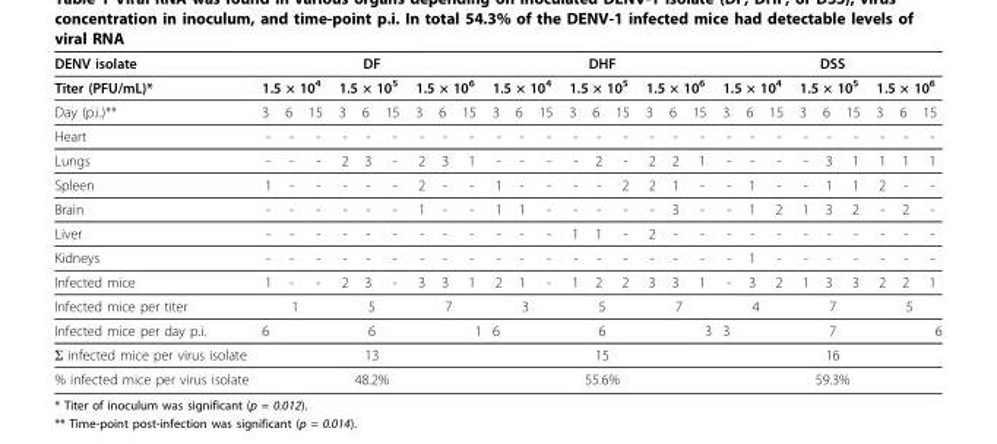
<table><thead><tr><td rowspan="3">DENV isolate Titer (PFU/mL)* Day (p.i.)**</td><td colspan="9">DF</td><td colspan="9">DHF</td><td colspan="9">DSS</td></tr><tr><td colspan="3">1.5 × 104</td><td colspan="3">1.5 × 105</td><td colspan="3">1.5 × 106</td><td colspan="3">1.5 × 104</td><td colspan="3">1.5 × 105</td><td colspan="3">1.5 × 106</td><td colspan="3">1.5 × 104</td><td colspan="3">1.5 × 105</td><td colspan="3">1.5 × 106</td></tr><tr><td>3</td><td>6</td><td>15</td><td>3</td><td>6</td><td>15</td><td>3</td><td>6</td><td>15</td><td>3</td><td>6</td><td>15</td><td>3</td><td>6</td><td>15</td><td>3</td><td>6</td><td>15</td><td>3</td><td>6</td><td>15</td><td>3</td><td>6</td><td>15</td><td>3</td><td>6</td><td>15</td></tr></thead><tbody><tr><td>Heart</td><td>-</td><td>-</td><td>-</td><td>-</td><td>-</td><td>-</td><td>-</td><td>-</td><td>-</td><td>-</td><td>-</td><td>-</td><td>-</td><td>-</td><td>-</td><td>-</td><td>-</td><td>-</td><td>-</td><td>-</td><td>-</td><td>-</td><td>-</td><td>-</td><td>-</td><td>-</td><td>-</td></tr><tr><td>Lungs</td><td>-</td><td>-</td><td>-</td><td>2</td><td>3</td><td>-</td><td>2</td><td>3</td><td>1</td><td>-</td><td>-</td><td>-</td><td>-</td><td>2</td><td>-</td><td>2</td><td>2</td><td>1</td><td>-</td><td>-</td><td>-</td><td>-</td><td>3</td><td>1</td><td>1</td><td>1</td><td>1</td></tr><tr><td>Spleen</td><td>1</td><td>-</td><td>-</td><td>-</td><td>-</td><td>-</td><td>2</td><td>-</td><td>-</td><td>1</td><td>-</td><td>-</td><td>-</td><td>-</td><td>2</td><td>2</td><td>1</td><td>-</td><td>-</td><td>1</td><td>-</td><td>-</td><td>1</td><td>1</td><td>2</td><td>-</td><td>-</td></tr><tr><td>Brain</td><td>-</td><td>-</td><td>-</td><td>-</td><td>-</td><td>-</td><td>1</td><td>-</td><td>-</td><td>1</td><td>1</td><td>-</td><td>-</td><td>-</td><td>-</td><td>-</td><td>3</td><td>-</td><td>-</td><td>1</td><td>2</td><td>1</td><td>3</td><td>2</td><td>-</td><td>2</td><td>-</td></tr><tr><td>Liver</td><td>-</td><td>-</td><td>-</td><td>-</td><td>-</td><td>-</td><td>-</td><td>-</td><td>-</td><td>-</td><td>-</td><td>-</td><td>1</td><td>1</td><td>-</td><td>2</td><td>-</td><td>-</td><td>-</td><td>-</td><td>-</td><td>-</td><td>-</td><td>-</td><td>-</td><td>-</td><td>-</td></tr><tr><td>Kidneys</td><td>-</td><td>-</td><td>-</td><td>-</td><td>-</td><td>-</td><td>-</td><td>-</td><td>-</td><td>-</td><td>-</td><td>-</td><td>-</td><td>-</td><td>-</td><td>-</td><td>-</td><td>-</td><td>-</td><td>1</td><td>-</td><td>-</td><td>-</td><td>-</td><td>-</td><td>-</td><td>-</td></tr><tr><td>Infected mice</td><td>1</td><td>-</td><td>-</td><td>2</td><td>3</td><td>-</td><td>3</td><td>3</td><td>1</td><td>2</td><td>1</td><td>-</td><td>1</td><td>2</td><td>2</td><td>3</td><td>3</td><td>1</td><td>-</td><td>3</td><td>2</td><td>1</td><td>3</td><td>3</td><td>2</td><td>2</td><td>1</td></tr><tr><td>Infected mice per titer</td><td colspan="3">1</td><td colspan="3">5</td><td colspan="3">7</td><td colspan="3">3</td><td colspan="3">5</td><td colspan="3">7</td><td colspan="3">4</td><td colspan="3">7</td><td colspan="3">5</td></tr><tr><td>Infected mice per day p.i.</td><td colspan="3">6</td><td colspan="3">6</td><td colspan="3">1</td><td colspan="3">6</td><td colspan="3">6</td><td colspan="3">3</td><td colspan="3">3</td><td colspan="3">7</td><td colspan="3">6</td></tr><tr><td>Σ infected mice per virus isolate</td><td colspan="9">13</td><td colspan="9">15</td><td colspan="9">16</td></tr><tr><td>% infected mice per virus isolate</td><td colspan="9">48.2%</td><td colspan="9">55.6%</td><td colspan="9">59.3%</td></tr></tbody></table>